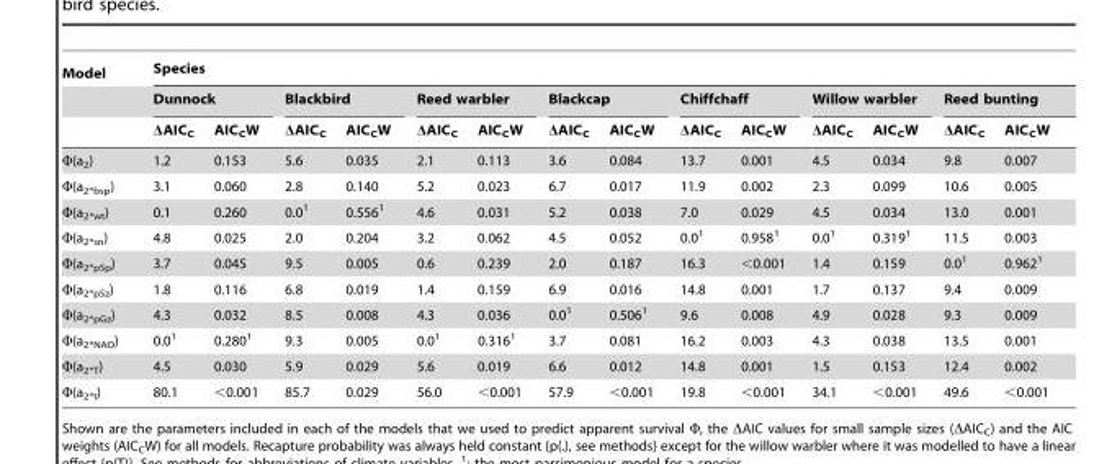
<table><thead><tr><td rowspan="3">Model</td><td colspan="14">Species</td></tr><tr><td colspan="2">Dunnock</td><td colspan="2">Blackbird</td><td colspan="2">Reed warbler</td><td colspan="2">Blackcap</td><td colspan="2">Chiffchaff</td><td colspan="2">Willow warbler</td><td colspan="2">Reed bunting</td></tr><tr><td>ΔAIC<sub>C</sub></td><td>AIC<sub>C</sub>W</td><td>ΔAIC<sub>C</sub></td><td>AIC<sub>C</sub>W</td><td>ΔAIC<sub>C</sub></td><td>AIC<sub>C</sub>W</td><td>ΔAIC<sub>C</sub></td><td>AIC<sub>C</sub>W</td><td>ΔAIC<sub>C</sub></td><td>AIC<sub>C</sub>W</td><td>ΔAIC<sub>C</sub></td><td>AIC<sub>C</sub>W</td><td>ΔAIC<sub>C</sub></td><td>AIC<sub>C</sub>W</td></tr></thead><tbody><tr><td>Φ(a<sub>2</sub>)</td><td>1.2</td><td>0.153</td><td>5.6</td><td>0.035</td><td>2.1</td><td>0.113</td><td>3.6</td><td>0.084</td><td>13.7</td><td>0.001</td><td>4.5</td><td>0.034</td><td>9.8</td><td>0.007</td></tr><tr><td>Φ(a<sub>2*bsp</sub>)</td><td>3.1</td><td>0.060</td><td>2.8</td><td>0.140</td><td>5.2</td><td>0.023</td><td>6.7</td><td>0.017</td><td>11.9</td><td>0.002</td><td>2.3</td><td>0.099</td><td>10.6</td><td>0.005</td></tr><tr><td>Φ(a<sub>2*wt</sub>)</td><td>0.1</td><td>0.260</td><td>0.0<sup>1</sup></td><td>0.556<sup>1</sup></td><td>4.6</td><td>0.031</td><td>5.2</td><td>0.038</td><td>7.0</td><td>0.029</td><td>4.5</td><td>0.034</td><td>13.0</td><td>0.001</td></tr><tr><td>Φ(a<sub>2*sn</sub>)</td><td>4.8</td><td>0.025</td><td>2.0</td><td>0.204</td><td>3.2</td><td>0.062</td><td>4.5</td><td>0.052</td><td>0.0<sup>1</sup></td><td>0.958<sup>1</sup></td><td>0.0<sup>1</sup></td><td>0.319<sup>1</sup></td><td>11.5</td><td>0.003</td></tr><tr><td>Φ(a<sub>2*pSp</sub>)</td><td>3.7</td><td>0.045</td><td>9.5</td><td>0.005</td><td>0.6</td><td>0.239</td><td>2.0</td><td>0.187</td><td>16.3</td><td>&lt;0.001</td><td>1.4</td><td>0.159</td><td>0.0<sup>1</sup></td><td>0.962<sup>1</sup></td></tr><tr><td>Φ(a<sub>2*pSz</sub>)</td><td>1.8</td><td>0.116</td><td>6.8</td><td>0.019</td><td>1.4</td><td>0.159</td><td>6.9</td><td>0.016</td><td>14.8</td><td>0.001</td><td>1.7</td><td>0.137</td><td>9.4</td><td>0.009</td></tr><tr><td>Φ(a<sub>2*pGz</sub>)</td><td>4.3</td><td>0.032</td><td>8.5</td><td>0.008</td><td>4.3</td><td>0.036</td><td>0.0<sup>1</sup></td><td>0.506<sup>1</sup></td><td>9.6</td><td>0.008</td><td>4.9</td><td>0.028</td><td>9.3</td><td>0.009</td></tr><tr><td>Φ(a<sub>2*NAO</sub>)</td><td>0.0<sup>1</sup></td><td>0.280<sup>1</sup></td><td>9.3</td><td>0.005</td><td>0.0<sup>1</sup></td><td>0.316<sup>1</sup></td><td>3.7</td><td>0.081</td><td>16.2</td><td>0.003</td><td>4.3</td><td>0.038</td><td>13.5</td><td>0.001</td></tr><tr><td>Φ(a<sub>2*T</sub>)</td><td>4.5</td><td>0.030</td><td>5.9</td><td>0.029</td><td>5.6</td><td>0.019</td><td>6.6</td><td>0.012</td><td>14.8</td><td>0.001</td><td>1.5</td><td>0.153</td><td>12.4</td><td>0.002</td></tr><tr><td>Φ(a<sub>2*t</sub>)</td><td>80.1</td><td>&lt;0.001</td><td>85.7</td><td>0.029</td><td>56.0</td><td>&lt;0.001</td><td>57.9</td><td>&lt;0.001</td><td>19.8</td><td>&lt;0.001</td><td>34.1</td><td>&lt;0.001</td><td>49.6</td><td>&lt;0.001</td></tr></tbody></table>